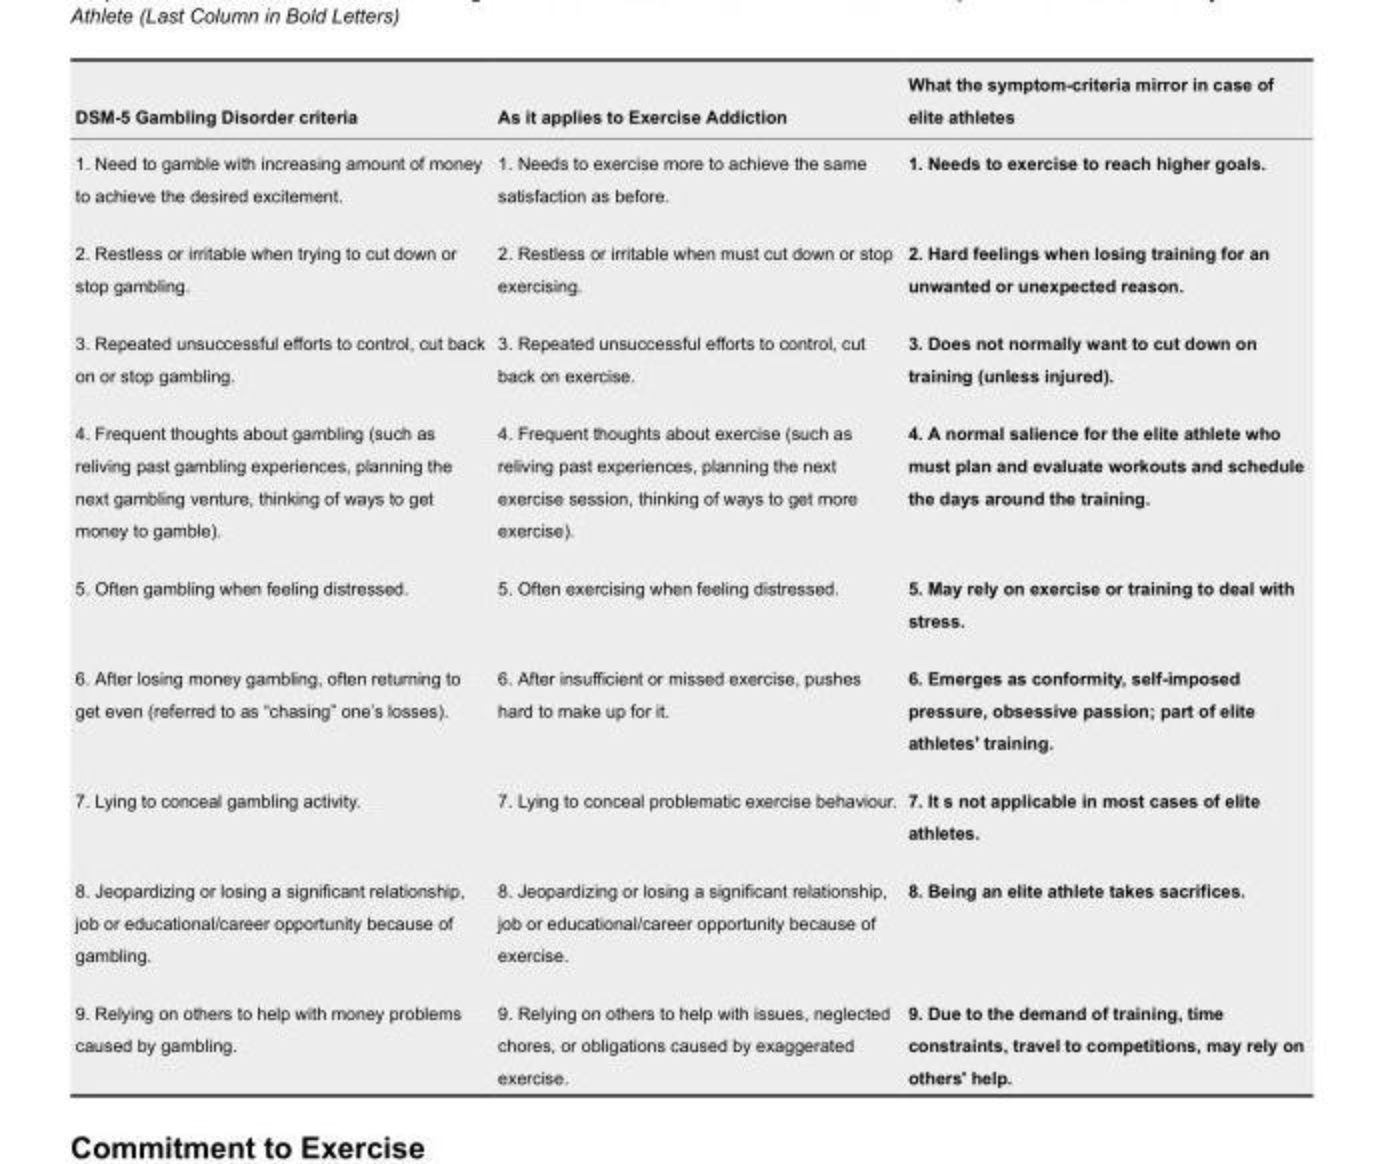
<table><thead><tr><td>DSM-5 Gambling Disorder criteria</td><td>As it applies to Exercise Addiction</td><td>What the symptom-criteria mirror in case of elite athletes</td></tr></thead><tbody><tr><td>1. Need to gamble with increasing amount of money to achieve the desired excitement.</td><td>1. Needs to exercise more to achieve the same satisfaction as before.</td><td>1. Needs to exercise to reach higher goals.</td></tr><tr><td>2. Restless or irritable when trying to cut down or stop gambling.</td><td>2. Restless or irritable when must cut down or stop exercising.</td><td>2. Hard feelings when losing training for an unwanted or unexpected reason.</td></tr><tr><td>3. Repeated unsuccessful efforts to control, cut back on or stop gambling.</td><td>3. Repeated unsuccessful efforts to control, cut back on exercise.</td><td>3. Does not normally want to cut down on training (unless injured).</td></tr><tr><td>4. Frequent thoughts about gambling (such as reliving past gambling experiences, planning the next gambling venture, thinking of ways to get money to gamble).</td><td>4. Frequent thoughts about exercise (such as reliving past experiences, planning the next exercise session, thinking of ways to get more exercise).</td><td>4. A normal salience for the elite athlete who must plan and evaluate workouts and schedule the days around the training.</td></tr><tr><td>5. Often gambling when feeling distressed.</td><td>5. Often exercising when feeling distressed.</td><td>5. May rely on exercise or training to deal with stress.</td></tr><tr><td>6. After losing money gambling, often returning to get even (referred to as “chasing” one’s losses).</td><td>6. After insufficient or missed exercise, pushes hard to make up for it.</td><td>6. Emerges as conformity, self-imposed pressure, obsessive passion; part of elite athletes&#x27; training.</td></tr><tr><td>7. Lying to conceal gambling activity.</td><td>7. Lying to conceal problematic exercise behaviour.</td><td>7. It s not applicable in most cases of elite athletes.</td></tr><tr><td>8. Jeopardizing or losing a significant relationship, job or educational/career opportunity because of gambling.</td><td>8. Jeopardizing or losing a significant relationship, job or educational/career opportunity because of exercise.</td><td>8. Being an elite athlete takes sacrifices.</td></tr><tr><td>9. Relying on others to help with money problems caused by gambling.</td><td>9. Relying on others to help with issues, neglected chores, or obligations caused by exaggerated exercise.</td><td>9. Due to the demand of training, time constraints, travel to competitions, may rely on others&#x27; help.</td></tr></tbody></table>